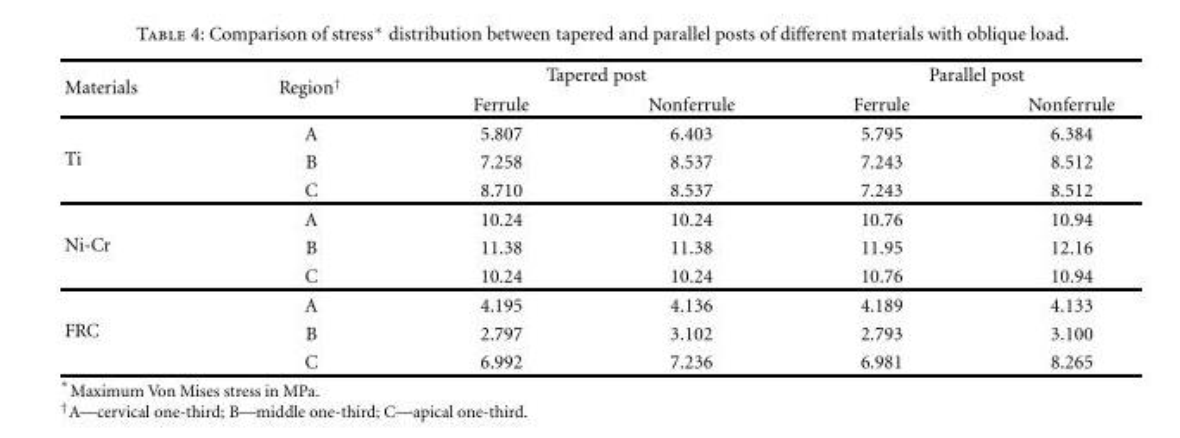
<table><thead><tr><td rowspan="2">Materials</td><td rowspan="2">Region<sup>†</sup></td><td colspan="2">Tapered post</td><td colspan="2">Parallel post</td></tr><tr><td>Ferrule</td><td>Nonferrule</td><td>Ferrule</td><td>Nonferrule</td></tr></thead><tbody><tr><td rowspan="3">Ti</td><td>A</td><td>5.807</td><td>6.403</td><td>5.795</td><td>6.384</td></tr><tr><td>B</td><td>7.258</td><td>8.537</td><td>7.243</td><td>8.512</td></tr><tr><td>C</td><td>8.710</td><td>8.537</td><td>7.243</td><td>8.512</td></tr><tr><td rowspan="3">Ni-Cr</td><td>A</td><td>10.24</td><td>10.24</td><td>10.76</td><td>10.94</td></tr><tr><td>B</td><td>11.38</td><td>11.38</td><td>11.95</td><td>12.16</td></tr><tr><td>C</td><td>10.24</td><td>10.24</td><td>10.76</td><td>10.94</td></tr><tr><td rowspan="3">FRC</td><td>A</td><td>4.195</td><td>4.136</td><td>4.189</td><td>4.133</td></tr><tr><td>B</td><td>2.797</td><td>3.102</td><td>2.793</td><td>3.100</td></tr><tr><td>C</td><td>6.992</td><td>7.236</td><td>6.981</td><td>8.265</td></tr></tbody></table>